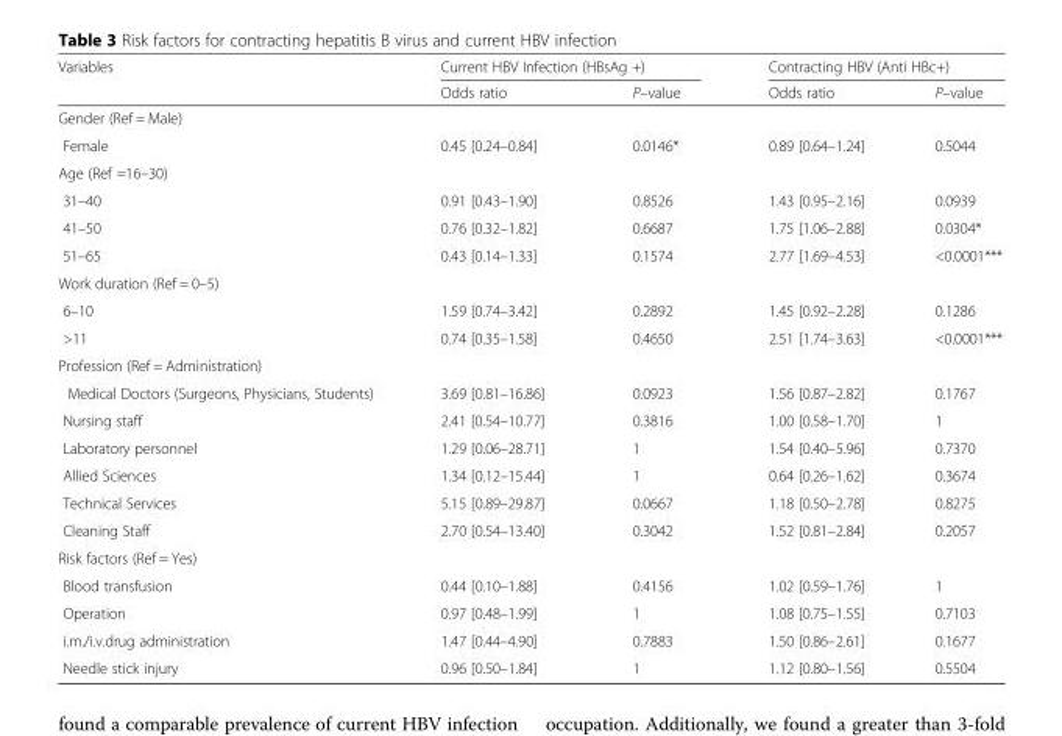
<table><thead><tr><td rowspan="2">Variables</td><td colspan="2">Current HBV Infection (HBsAg +)</td><td colspan="2">Contracting HBV (Anti HBc+)</td></tr><tr><td>Odds ratio</td><td>P–value</td><td>Odds ratio</td><td>P–value</td></tr></thead><tbody><tr><td colspan="5">Gender (Ref = Male)</td></tr><tr><td>Female</td><td>0.45 [0.24–0.84]</td><td>0.0146*</td><td>0.89 [0.64–1.24]</td><td>0.5044</td></tr><tr><td colspan="5">Age (Ref =16–30)</td></tr><tr><td>31–40</td><td>0.91 [0.43–1.90]</td><td>0.8526</td><td>1.43 [0.95–2.16]</td><td>0.0939</td></tr><tr><td>41–50</td><td>0.76 [0.32–1.82]</td><td>0.6687</td><td>1.75 [1.06–2.88]</td><td>0.0304*</td></tr><tr><td>51–65</td><td>0.43 [0.14–1.33]</td><td>0.1574</td><td>2.77 [1.69–4.53]</td><td>&lt;0.0001***</td></tr><tr><td colspan="5">Work duration (Ref = 0–5)</td></tr><tr><td>6–10</td><td>1.59 [0.74–3.42]</td><td>0.2892</td><td>1.45 [0.92–2.28]</td><td>0.1286</td></tr><tr><td>&gt;11</td><td>0.74 [0.35–1.58]</td><td>0.4650</td><td>2.51 [1.74–3.63]</td><td>&lt;0.0001***</td></tr><tr><td colspan="5">Profession (Ref = Administration)</td></tr><tr><td>Medical Doctors (Surgeons, Physicians, Students)</td><td>3.69 [0.81–16.86]</td><td>0.0923</td><td>1.56 [0.87–2.82]</td><td>0.1767</td></tr><tr><td>Nursing staff</td><td>2.41 [0.54–10.77]</td><td>0.3816</td><td>1.00 [0.58–1.70]</td><td>1</td></tr><tr><td>Laboratory personnel</td><td>1.29 [0.06–28.71]</td><td>1</td><td>1.54 [0.40–5.96]</td><td>0.7370</td></tr><tr><td>Allied Sciences</td><td>1.34 [0.12–15.44]</td><td>1</td><td>0.64 [0.26–1.62]</td><td>0.3674</td></tr><tr><td>Technical Services</td><td>5.15 [0.89–29.87]</td><td>0.0667</td><td>1.18 [0.50–2.78]</td><td>0.8275</td></tr><tr><td>Cleaning Staff</td><td>2.70 [0.54–13.40]</td><td>0.3042</td><td>1.52 [0.81–2.84]</td><td>0.2057</td></tr><tr><td colspan="5">Risk factors (Ref = Yes)</td></tr><tr><td>Blood transfusion</td><td>0.44 [0.10–1.88]</td><td>0.4156</td><td>1.02 [0.59–1.76]</td><td>1</td></tr><tr><td>Operation</td><td>0.97 [0.48–1.99]</td><td>1</td><td>1.08 [0.75–1.55]</td><td>0.7103</td></tr><tr><td>i.m./i.v.drug administration</td><td>1.47 [0.44–4.90]</td><td>0.7883</td><td>1.50 [0.86–2.61]</td><td>0.1677</td></tr><tr><td>Needle stick injury</td><td>0.96 [0.50–1.84]</td><td>1</td><td>1.12 [0.80–1.56]</td><td>0.5504</td></tr></tbody></table>